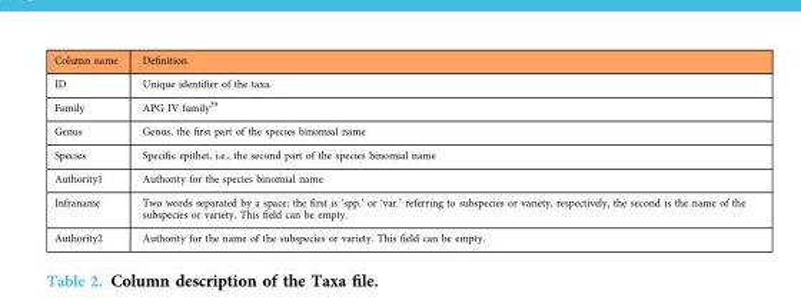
<table><thead><tr><td>Column name</td><td>Definition</td></tr></thead><tbody><tr><td>ID</td><td>Unique identifier of the taxa.</td></tr><tr><td>Family</td><td>APG IV family<sup>39</sup></td></tr><tr><td>Genus</td><td>Genus, the first part of the species binomial name</td></tr><tr><td>Species</td><td>Specific epithet, i.e., the second part of the species binomial name</td></tr><tr><td>Authority1</td><td>Authority for the species binomial name</td></tr><tr><td>Infraname</td><td>Two words separated by a space; the first is ‘spp.’ or ‘var.’ referring to subspecies or variety, respectively, the second is the name of the subspecies or variety. This field can be empty.</td></tr><tr><td>Authority2</td><td>Authority for the name of the subspecies or variety. This field can be empty.</td></tr></tbody></table>